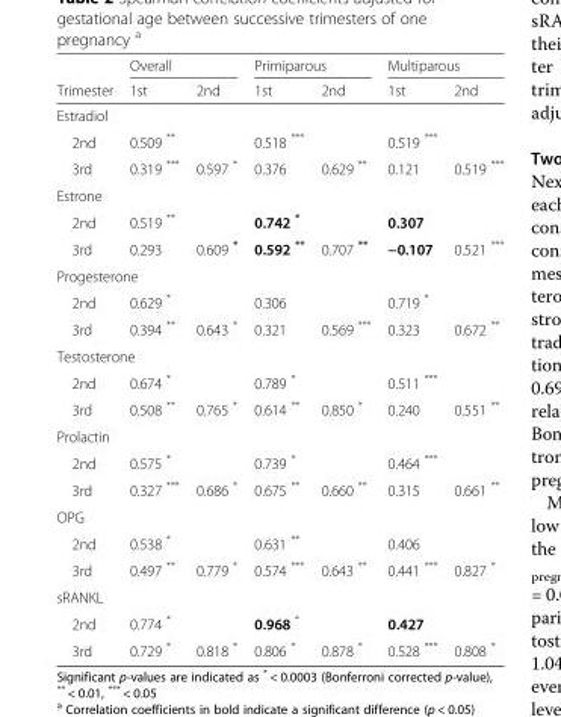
<table><thead><tr><td rowspan="2">Trimester</td><td colspan="2">Overall</td><td colspan="2">Primiparous</td><td colspan="2">Multiparous</td></tr><tr><td>1st</td><td>2nd</td><td>1st</td><td>2nd</td><td>1st</td><td>2nd</td></tr></thead><tbody><tr><td colspan="7">Estradiol</td></tr><tr><td>2nd</td><td>0.509 **</td><td></td><td>0.518 ***</td><td></td><td>0.519 ***</td><td></td></tr><tr><td>3rd</td><td>0.319 ***</td><td>0.597 *</td><td>0.376</td><td>0.629 **</td><td>0.121</td><td>0.519 ***</td></tr><tr><td colspan="7">Estrone</td></tr><tr><td>2nd</td><td>0.519 **</td><td></td><td>0.742 *</td><td></td><td>0.307</td><td></td></tr><tr><td>3rd</td><td>0.293</td><td>0.609 *</td><td>0.592 **</td><td>0.707 **</td><td>−0.107</td><td>0.521 ***</td></tr><tr><td colspan="7">Progesterone</td></tr><tr><td>2nd</td><td>0.629 *</td><td></td><td>0.306</td><td></td><td>0.719 *</td><td></td></tr><tr><td>3rd</td><td>0.394 **</td><td>0.643 *</td><td>0.321</td><td>0.569 ***</td><td>0.323</td><td>0.672 **</td></tr><tr><td colspan="7">Testosterone</td></tr><tr><td>2nd</td><td>0.674 *</td><td></td><td>0.789 *</td><td></td><td>0.511 ***</td><td></td></tr><tr><td>3rd</td><td>0.508 **</td><td>0.765 *</td><td>0.614 **</td><td>0.850 *</td><td>0.240</td><td>0.551 **</td></tr><tr><td colspan="7">Prolactin</td></tr><tr><td>2nd</td><td>0.575 *</td><td></td><td>0.739 *</td><td></td><td>0.464 ***</td><td></td></tr><tr><td>3rd</td><td>0.327 ***</td><td>0.686 *</td><td>0.675 **</td><td>0.660 **</td><td>0.315</td><td>0.661 **</td></tr><tr><td colspan="7">OPG</td></tr><tr><td>2nd</td><td>0.538 *</td><td></td><td>0.631 **</td><td></td><td>0.406</td><td></td></tr><tr><td>3rd</td><td>0.497 **</td><td>0.779 *</td><td>0.574 ***</td><td>0.643 **</td><td>0.441 ***</td><td>0.827 *</td></tr><tr><td colspan="7">sRANKL</td></tr><tr><td>2nd</td><td>0.774 *</td><td></td><td>0.968 *</td><td></td><td>0.427</td><td></td></tr><tr><td>3rd</td><td>0.729 *</td><td>0.818 *</td><td>0.806 *</td><td>0.878 *</td><td>0.528 ***</td><td>0.808 *</td></tr></tbody></table>